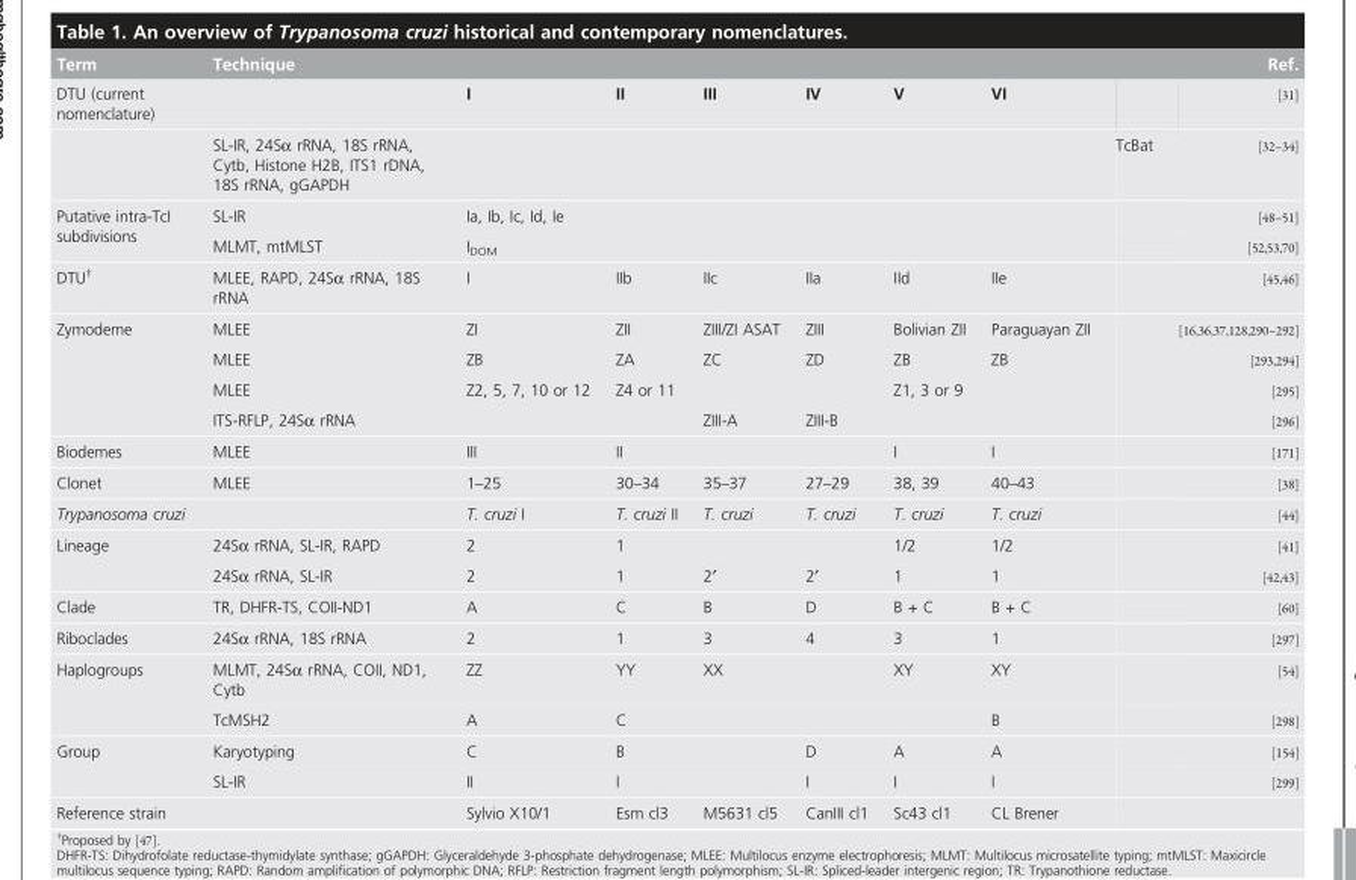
<table><thead><tr><td>Term</td><td>Technique</td><td></td><td></td><td></td><td></td><td></td><td></td><td></td><td>Ref.</td></tr></thead><tbody><tr><td rowspan="2">DTU (current nomenclature)</td><td></td><td>I</td><td>II</td><td>III</td><td>IV</td><td>V</td><td>VI</td><td></td><td>[31]</td></tr><tr><td>SL-IR, 24Sα rRNA, 18S rRNA, Cytb, Histone H2B, ITS1 rDNA, 18S rRNA, gGAPDH</td><td></td><td></td><td></td><td></td><td></td><td></td><td>TcBat</td><td>[32–34]</td></tr><tr><td rowspan="2">Putative intra-TcI subdivisions</td><td>SL-IR</td><td>Ia, Ib, Ic, Id, Ie</td><td></td><td></td><td></td><td></td><td></td><td></td><td>[48–51]</td></tr><tr><td>MLMT, mtMLST</td><td>I<sub>DOM</sub></td><td></td><td></td><td></td><td></td><td></td><td></td><td>[52,53,70]</td></tr><tr><td>DTU<sup>†</sup></td><td>MLEE, RAPD, 24Sα rRNA, 18S rRNA</td><td>I</td><td>IIb</td><td>IIc</td><td>IIa</td><td>IId</td><td>IIe</td><td></td><td>[45,46]</td></tr><tr><td rowspan="4">Zymodeme</td><td>MLEE</td><td>ZI</td><td>ZII</td><td>ZIII/ZI ASAT</td><td>ZIII</td><td>Bolivian ZII</td><td>Paraguayan ZII</td><td></td><td>[16,36,37,128,290–292]</td></tr><tr><td>MLEE</td><td>ZB</td><td>ZA</td><td>ZC</td><td>ZD</td><td>ZB</td><td>ZB</td><td rowspan="2"></td><td>[293,294]</td></tr><tr><td>MLEE</td><td>Z2, 5, 7, 10 or 12</td><td>Z4 or 11</td><td></td><td></td><td>Z1, 3 or 9</td><td></td><td>[295]</td></tr><tr><td>ITS-RFLP, 24Sα rRNA</td><td></td><td></td><td>ZIII-A</td><td>ZIII-B</td><td></td><td></td><td></td><td>[296]</td></tr><tr><td>Biodemes</td><td>MLEE</td><td>III</td><td>II</td><td></td><td></td><td>I</td><td>I</td><td></td><td>[171]</td></tr><tr><td>Clonet</td><td>MLEE</td><td>1–25</td><td>30–34</td><td>35–37</td><td>27–29</td><td>38, 39</td><td>40–43</td><td></td><td>[38]</td></tr><tr><td>Trypanosoma cruzi</td><td></td><td>T. cruzi I</td><td>T. cruzi II</td><td>T. cruzi</td><td>T. cruzi</td><td>T. cruzi</td><td>T. cruzi</td><td></td><td>[44]</td></tr><tr><td rowspan="2">Lineage</td><td>24Sα rRNA, SL-IR, RAPD</td><td>2</td><td>1</td><td></td><td></td><td>1/2</td><td>1/2</td><td></td><td>[41]</td></tr><tr><td>24Sα rRNA, SL-IR</td><td>2</td><td>1</td><td>2¢</td><td>2¢</td><td>1</td><td>1</td><td></td><td>[42,43]</td></tr><tr><td>Clade</td><td>TR, DHFR-TS, COII-ND1</td><td>A</td><td>C</td><td>B</td><td>D</td><td>B + C</td><td>B + C</td><td></td><td>[60]</td></tr><tr><td>Riboclades</td><td>24Sα rRNA, 18S rRNA</td><td>2</td><td>1</td><td>3</td><td>4</td><td>3</td><td>1</td><td></td><td>[297]</td></tr><tr><td rowspan="2">Haplogroups</td><td>MLMT, 24Sα rRNA, COII, ND1, Cytb</td><td>ZZ</td><td>YY</td><td>XX</td><td></td><td>XY</td><td>XY</td><td></td><td>[54]</td></tr><tr><td>TcMSH2</td><td>A</td><td>C</td><td></td><td></td><td></td><td>B</td><td></td><td>[298]</td></tr><tr><td rowspan="2">Group</td><td>Karyotyping</td><td>C</td><td>B</td><td></td><td>D</td><td>A</td><td>A</td><td></td><td>[154]</td></tr><tr><td>SL-IR</td><td>II</td><td>I</td><td></td><td>I</td><td>I</td><td>I</td><td></td><td>[299]</td></tr><tr><td>Reference strain</td><td></td><td>Sylvio X10/1</td><td>Esm cl3</td><td>M5631 cl5</td><td>CanIII cl1</td><td>Sc43 cl1</td><td>CL Brener</td><td></td><td></td></tr></tbody></table>